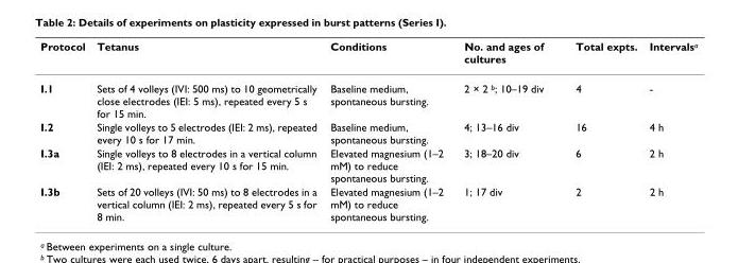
<table><thead><tr><td>Protocol</td><td>Tetanus</td><td>Conditions</td><td>No. and ages of cultures</td><td>Total expts.</td><td>Intervals<sup>a</sup></td></tr></thead><tbody><tr><td>I.1</td><td>Sets of 4 volleys (IVI: 500 ms) to 10 geometrically close electrodes (IEI: 5 ms), repeated every 5 s for 15 min.</td><td>Baseline medium, spontaneous bursting.</td><td>2 × 2 <sup>b</sup>; 10–19 div</td><td>4</td><td>-</td></tr><tr><td>I.2</td><td>Single volleys to 5 electrodes (IEI: 2 ms), repeated every 10 s for 17 min.</td><td>Baseline medium, spontaneous bursting.</td><td>4; 13–16 div</td><td>16</td><td>4 h</td></tr><tr><td>I.3a</td><td>Single volleys to 8 electrodes in a vertical column (IEI: 2 ms), repeated every 10 s for 15 min.</td><td>Elevated magnesium (1–2 mM) to reduce spontaneous bursting.</td><td>3; 18–20 div</td><td>6</td><td>2 h</td></tr><tr><td>I.3b</td><td>Sets of 20 volleys (IVI: 50 ms) to 8 electrodes in a vertical column (IEI: 2 ms), repeated every 5 s for 8 min.</td><td>Elevated magnesium (1–2 mM) to reduce spontaneous bursting.</td><td>1; 17 div</td><td>2</td><td>2 h</td></tr></tbody></table>